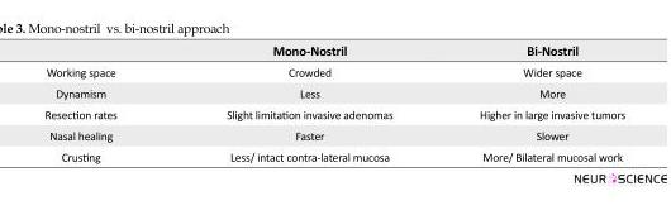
<table><thead><tr><td></td><td>Mono-Nostril</td><td>Bi-Nostril</td></tr></thead><tbody><tr><td>Working space</td><td>Crowded</td><td>Wider space</td></tr><tr><td>Dynamism</td><td>Less</td><td>More</td></tr><tr><td>Resection rates</td><td>Slight limitation invasive adenomas</td><td>Higher in large invasive tumors</td></tr><tr><td>Nasal healing</td><td>Faster</td><td>Slower</td></tr><tr><td>Crusting</td><td>Less/ intact contra-lateral mucosa</td><td>More/ Bilateral mucosal work</td></tr></tbody></table>